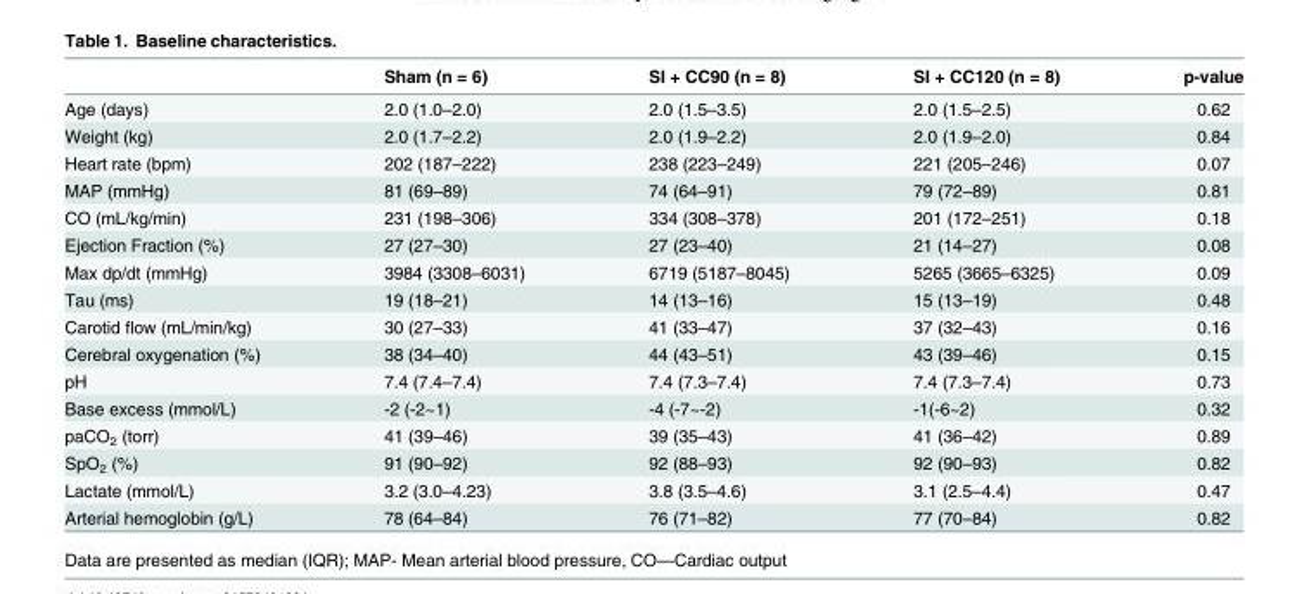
<table><thead><tr><td></td><td>Sham (n = 6)</td><td>SI + CC90 (n = 8)</td><td>SI + CC120 (n = 8)</td><td>p-value</td></tr></thead><tbody><tr><td>Age (days)</td><td>2.0 (1.0–2.0)</td><td>2.0 (1.5–3.5)</td><td>2.0 (1.5–2.5)</td><td>0.62</td></tr><tr><td>Weight (kg)</td><td>2.0 (1.7–2.2)</td><td>2.0 (1.9–2.2)</td><td>2.0 (1.9–2.0)</td><td>0.84</td></tr><tr><td>Heart rate (bpm)</td><td>202 (187–222)</td><td>238 (223–249)</td><td>221 (205–246)</td><td>0.07</td></tr><tr><td>MAP (mmHg)</td><td>81 (69–89)</td><td>74 (64–91)</td><td>79 (72–89)</td><td>0.81</td></tr><tr><td>CO (mL/kg/min)</td><td>231 (198–306)</td><td>334 (308–378)</td><td>201 (172–251)</td><td>0.18</td></tr><tr><td>Ejection Fraction (%)</td><td>27 (27–30)</td><td>27 (23–40)</td><td>21 (14–27)</td><td>0.08</td></tr><tr><td>Max dp/dt (mmHg)</td><td>3984 (3308–6031)</td><td>6719 (5187–8045)</td><td>5265 (3665–6325)</td><td>0.09</td></tr><tr><td>Tau (ms)</td><td>19 (18–21)</td><td>14 (13–16)</td><td>15 (13–19)</td><td>0.48</td></tr><tr><td>Carotid flow (mL/min/kg)</td><td>30 (27–33)</td><td>41 (33–47)</td><td>37 (32–43)</td><td>0.16</td></tr><tr><td>Cerebral oxygenation (%)</td><td>38 (34–40)</td><td>44 (43–51)</td><td>43 (39–46)</td><td>0.15</td></tr><tr><td>pH</td><td>7.4 (7.4–7.4)</td><td>7.4 (7.3–7.4)</td><td>7.4 (7.3–7.4)</td><td>0.73</td></tr><tr><td>Base excess (mmol/L)</td><td>-2 (-2~1)</td><td>-4 (-7~-2)</td><td>-1(-6~2)</td><td>0.32</td></tr><tr><td>paCO<sub>2</sub> (torr)</td><td>41 (39–46)</td><td>39 (35–43)</td><td>41 (36–42)</td><td>0.89</td></tr><tr><td>SpO<sub>2</sub> (%)</td><td>91 (90–92)</td><td>92 (88–93)</td><td>92 (90–93)</td><td>0.82</td></tr><tr><td>Lactate (mmol/L)</td><td>3.2 (3.0–4.23)</td><td>3.8 (3.5–4.6)</td><td>3.1 (2.5–4.4)</td><td>0.47</td></tr><tr><td>Arterial hemoglobin (g/L)</td><td>78 (64–84)</td><td>76 (71–82)</td><td>77 (70–84)</td><td>0.82</td></tr></tbody></table>